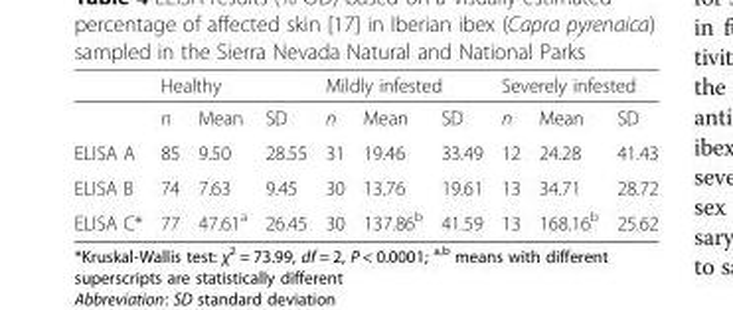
<table><thead><tr><td rowspan="2"></td><td colspan="3">Healthy</td><td colspan="3">Mildly infested</td><td colspan="3">Severely infested</td></tr><tr><td>n</td><td>Mean</td><td>SD</td><td>n</td><td>Mean</td><td>SD</td><td>n</td><td>Mean</td><td>SD</td></tr></thead><tbody><tr><td>ELISA A</td><td>85</td><td>9.50</td><td>28.55</td><td>31</td><td>19.46</td><td>33.49</td><td>12</td><td>24.28</td><td>41.43</td></tr><tr><td>ELISA B</td><td>74</td><td>7.63</td><td>9.45</td><td>30</td><td>13.76</td><td>19.61</td><td>13</td><td>34.71</td><td>28.72</td></tr><tr><td>ELISA C*</td><td>77</td><td>47.61<sup>a</sup></td><td>26.45</td><td>30</td><td>137.86<sup>b</sup></td><td>41.59</td><td>13</td><td>168.16<sup>b</sup></td><td>25.62</td></tr></tbody></table>